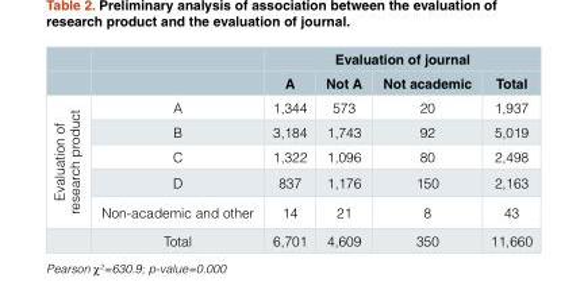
<table><thead><tr><td rowspan="2"></td><td rowspan="2"></td><td colspan="4">Evaluation of journal</td></tr><tr><td>A</td><td>Not A</td><td>Not academic</td><td>Total</td></tr></thead><tbody><tr><td rowspan="6">Evaluation of research product</td><td>A</td><td>1,344</td><td>573</td><td>20</td><td>1,937</td></tr><tr><td>B</td><td>3,184</td><td>1,743</td><td>92</td><td>5,019</td></tr><tr><td>C</td><td>1,322</td><td>1,096</td><td>80</td><td>2,498</td></tr><tr><td>D</td><td>837</td><td>1,176</td><td>150</td><td>2,163</td></tr><tr><td>Non-academic and other</td><td>14</td><td>21</td><td>8</td><td>43</td></tr><tr><td>Total</td><td>6,701</td><td>4,609</td><td>350</td><td>11,660</td></tr></tbody></table>